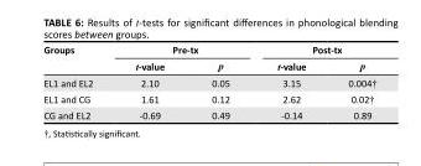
<table><thead><tr><td rowspan="2">Groups</td><td colspan="2">Pre-tx</td><td colspan="2">Post-tx</td></tr><tr><td>t-value</td><td>p</td><td>t-value</td><td>p</td></tr></thead><tbody><tr><td>EL1 and EL2</td><td>2.10</td><td>0.05</td><td>3.15</td><td>0.004†</td></tr><tr><td>EL1 and CG</td><td>1.61</td><td>0.12</td><td>2.62</td><td>0.02†</td></tr><tr><td>CG and EL2</td><td>-0.69</td><td>0.49</td><td>-0.14</td><td>0.89</td></tr></tbody></table>